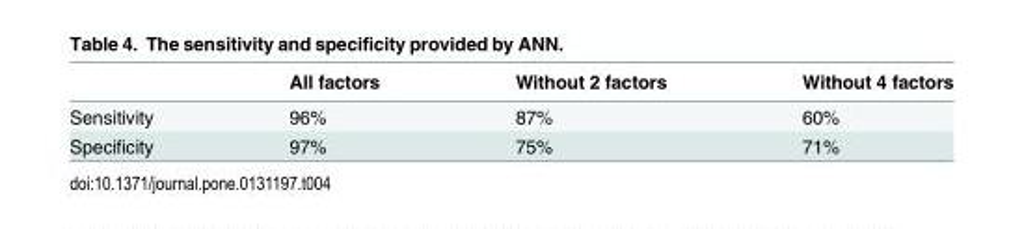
<table><thead><tr><td></td><td>All factors</td><td>Without 2 factors</td><td>Without 4 factors</td></tr></thead><tbody><tr><td>Sensitivity</td><td>96%</td><td>87%</td><td>60%</td></tr><tr><td>Specificity</td><td>97%</td><td>75%</td><td>71%</td></tr></tbody></table>